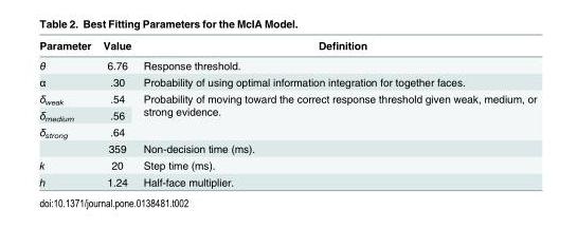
<table><thead><tr><td>Parameter</td><td>Value</td><td>Definition</td></tr></thead><tbody><tr><td rowspan="2">θ α</td><td>6.76</td><td>Response threshold.</td></tr><tr><td>.30</td><td>Probability of using optimal information integration for together faces.</td></tr><tr><td>δ<sub>weak</sub></td><td>.54</td><td rowspan="3">Probability of moving toward the correct response threshold given weak, medium, or strong evidence.</td></tr><tr><td>δ<sub>medium</sub></td><td>.56</td></tr><tr><td rowspan="2">δ<sub>strong</sub></td><td>.64</td></tr><tr><td>359</td><td>Non-decision time (ms).</td></tr><tr><td>k</td><td>20</td><td>Step time (ms).</td></tr><tr><td>h</td><td>1.24</td><td>Half-face multiplier.</td></tr></tbody></table>